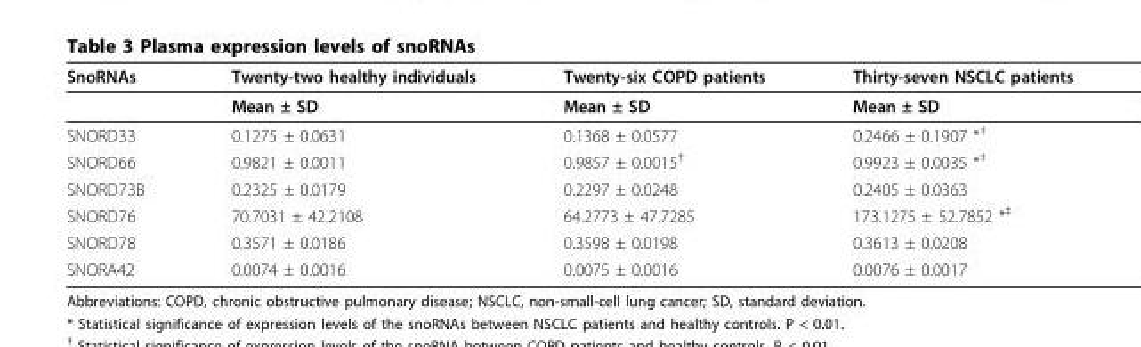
<table><thead><tr><td>SnoRNAs</td><td>Twenty-two healthy individuals</td><td>Twenty-six COPD patients</td><td>Thirty-seven NSCLC patients</td></tr></thead><tbody><tr><td></td><td>Mean ± SD</td><td>Mean ± SD</td><td>Mean ± SD</td></tr><tr><td>SNORD33</td><td>0.1275 ± 0.0631</td><td>0.1368 ± 0.0577</td><td>0.2466 ± 0.1907 *<sup>‡</sup></td></tr><tr><td>SNORD66</td><td>0.9821 ± 0.0011</td><td>0.9857 ± 0.0015<sup>†</sup></td><td>0.9923 ± 0.0035 *<sup>‡</sup></td></tr><tr><td>SNORD73B</td><td>0.2325 ± 0.0179</td><td>0.2297 ± 0.0248</td><td>0.2405 ± 0.0363</td></tr><tr><td>SNORD76</td><td>70.7031 ± 42.2108</td><td>64.2773 ± 47.7285</td><td>173.1275 ± 52.7852 *<sup>‡</sup></td></tr><tr><td>SNORD78</td><td>0.3571 ± 0.0186</td><td>0.3598 ± 0.0198</td><td>0.3613 ± 0.0208</td></tr><tr><td>SNORA42</td><td>0.0074 ± 0.0016</td><td>0.0075 ± 0.0016</td><td>0.0076 ± 0.0017</td></tr></tbody></table>